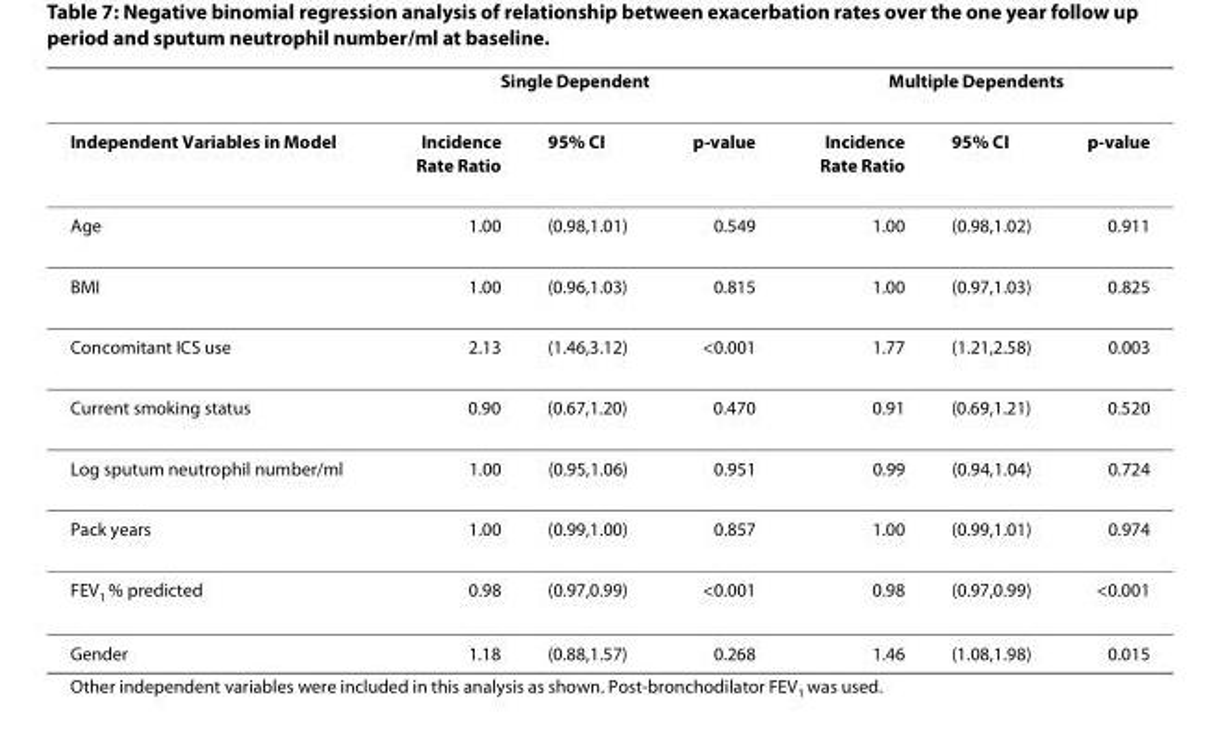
<table><thead><tr><td rowspan="2">Independent Variables in Model</td><td colspan="3">Single Dependent</td><td colspan="3">Multiple Dependents</td></tr><tr><td>Incidence Rate Ratio</td><td>95% CI</td><td>p-value</td><td>Incidence Rate Ratio</td><td>95% CI</td><td>p-value</td></tr></thead><tbody><tr><td>Age</td><td>1.00</td><td>(0.98,1.01)</td><td>0.549</td><td>1.00</td><td>(0.98,1.02)</td><td>0.911</td></tr><tr><td>BMI</td><td>1.00</td><td>(0.96,1.03)</td><td>0.815</td><td>1.00</td><td>(0.97,1.03)</td><td>0.825</td></tr><tr><td>Concomitant ICS use</td><td>2.13</td><td>(1.46,3.12)</td><td>&lt;0.001</td><td>1.77</td><td>(1.21,2.58)</td><td>0.003</td></tr><tr><td>Current smoking status</td><td>0.90</td><td>(0.67,1.20)</td><td>0.470</td><td>0.91</td><td>(0.69,1.21)</td><td>0.520</td></tr><tr><td>Log sputum neutrophil number/ml</td><td>1.00</td><td>(0.95,1.06)</td><td>0.951</td><td>0.99</td><td>(0.94,1.04)</td><td>0.724</td></tr><tr><td>Pack years</td><td>1.00</td><td>(0.99,1.00)</td><td>0.857</td><td>1.00</td><td>(0.99,1.01)</td><td>0.974</td></tr><tr><td>FEV1 % predicted</td><td>0.98</td><td>(0.97,0.99)</td><td>&lt;0.001</td><td>0.98</td><td>(0.97,0.99)</td><td>&lt;0.001</td></tr><tr><td>Gender</td><td>1.18</td><td>(0.88,1.57)</td><td>0.268</td><td>1.46</td><td>(1.08,1.98)</td><td>0.015</td></tr></tbody></table>